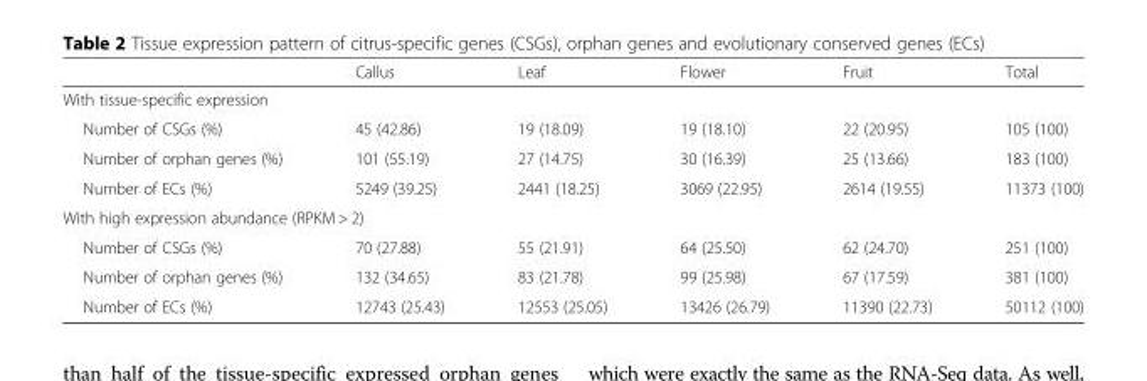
<table><thead><tr><td></td><td>Callus</td><td>Leaf</td><td>Flower</td><td>Fruit</td><td>Total</td></tr></thead><tbody><tr><td colspan="6">With tissue-specific expression</td></tr><tr><td>Number of CSGs (%)</td><td>45 (42.86)</td><td>19 (18.09)</td><td>19 (18.10)</td><td>22 (20.95)</td><td>105 (100)</td></tr><tr><td>Number of orphan genes (%)</td><td>101 (55.19)</td><td>27 (14.75)</td><td>30 (16.39)</td><td>25 (13.66)</td><td>183 (100)</td></tr><tr><td>Number of ECs (%)</td><td>5249 (39.25)</td><td>2441 (18.25)</td><td>3069 (22.95)</td><td>2614 (19.55)</td><td>11373 (100)</td></tr><tr><td colspan="6">With high expression abundance (RPKM &gt; 2)</td></tr><tr><td>Number of CSGs (%)</td><td>70 (27.88)</td><td>55 (21.91)</td><td>64 (25.50)</td><td>62 (24.70)</td><td>251 (100)</td></tr><tr><td>Number of orphan genes (%)</td><td>132 (34.65)</td><td>83 (21.78)</td><td>99 (25.98)</td><td>67 (17.59)</td><td>381 (100)</td></tr><tr><td>Number of ECs (%)</td><td>12743 (25.43)</td><td>12553 (25.05)</td><td>13426 (26.79)</td><td>11390 (22.73)</td><td>50112 (100)</td></tr></tbody></table>